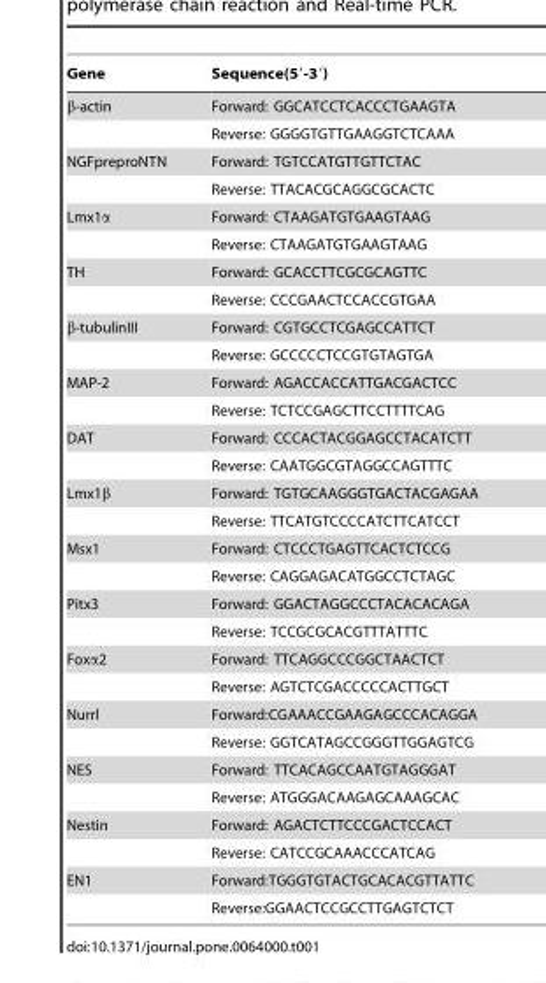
<table><thead><tr><td>Gene</td><td>Sequence(5′-3′)</td></tr></thead><tbody><tr><td rowspan="2">β-actin</td><td>Forward: GGCATCCTCACCCTGAAGTA</td></tr><tr><td>Reverse: GGGGTGTTGAAGGTCTCAAA</td></tr><tr><td rowspan="2">NGFpreproNTN</td><td>Forward: TGTCCATGTTGTTCTAC</td></tr><tr><td>Reverse: TTACACGCAGGCGCACTC</td></tr><tr><td rowspan="2">Lmx1α</td><td>Forward: CTAAGATGTGAAGTAAG</td></tr><tr><td>Reverse: CTAAGATGTGAAGTAAG</td></tr><tr><td rowspan="2">TH</td><td>Forward: GCACCTTCGCGCAGTTC</td></tr><tr><td>Reverse: CCCGAACTCCACCGTGAA</td></tr><tr><td rowspan="2">β-tubulinIII</td><td>Forward: CGTGCCTCGAGCCATTCT</td></tr><tr><td>Reverse: GCCCCCTCCGTGTAGTGA</td></tr><tr><td rowspan="2">MAP-2</td><td>Forward: AGACCACCATTGACGACTCC</td></tr><tr><td>Reverse: TCTCCGAGCTTCCTTTTCAG</td></tr><tr><td rowspan="2">DAT</td><td>Forward: CCCACTACGGAGCCTACATCTT</td></tr><tr><td>Reverse: CAATGGCGTAGGCCAGTTTC</td></tr><tr><td rowspan="2">Lmx1β</td><td>Forward: TGTGCAAGGGTGACTACGAGAA</td></tr><tr><td>Reverse: TTCATGTCCCCATCTTCATCCT</td></tr><tr><td rowspan="2">Msx1</td><td>Forward: CTCCCTGAGTTCACTCTCCG</td></tr><tr><td>Reverse: CAGGAGACATGGCCTCTAGC</td></tr><tr><td rowspan="2">Pitx3</td><td>Forward: GGACTAGGCCCTACACACAGA</td></tr><tr><td>Reverse: TCCGCGCACGTTTATTTC</td></tr><tr><td rowspan="2">Foxα2</td><td>Forward: TTCAGGCCCGGCTAACTCT</td></tr><tr><td>Reverse: AGTCTCGACCCCCACTTGCT</td></tr><tr><td rowspan="2">Nurrl</td><td>Forward:CGAAACCGAAGAGCCCACAGGA</td></tr><tr><td>Reverse: GGTCATAGCCGGGTTGGAGTCG</td></tr><tr><td rowspan="2">NES</td><td>Forward: TTCACAGCCAATGTAGGGAT</td></tr><tr><td>Reverse: ATGGGACAAGAGCAAAGCAC</td></tr><tr><td rowspan="2">Nestin</td><td>Forward: AGACTCTTCCCGACTCCACT</td></tr><tr><td>Reverse: CATCCGCAAACCCATCAG</td></tr><tr><td rowspan="2">EN1</td><td>Forward:TGGGTGTACTGCACACGTTATTC</td></tr><tr><td>Reverse:GGAACTCCGCCTTGAGTCTCT</td></tr></tbody></table>